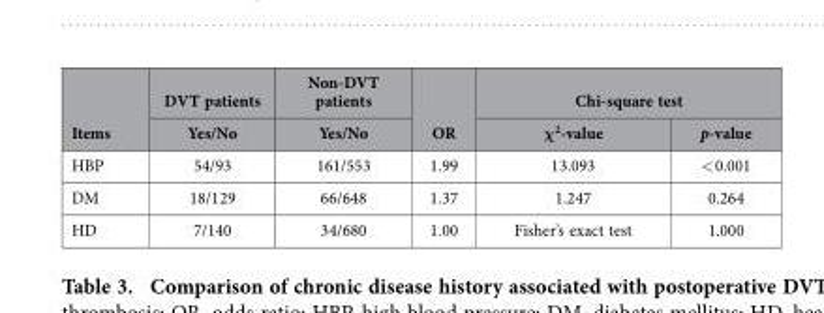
<table><thead><tr><td rowspan="2">Items</td><td rowspan="2">DVT patients Yes/No</td><td rowspan="2">Non-DVT patients Yes/No</td><td rowspan="2">OR</td><td colspan="2">Chi-square test</td></tr><tr><td>χ<sup>2</sup>-value</td><td>p-value</td></tr></thead><tbody><tr><td>HBP</td><td>54/93</td><td>161/553</td><td>1.99</td><td>13.093</td><td>&lt; 0.001</td></tr><tr><td>DM</td><td>18/129</td><td>66/648</td><td>1.37</td><td>1.247</td><td>0.264</td></tr><tr><td>HD</td><td>7/140</td><td>34/680</td><td>1.00</td><td>Fisher’s exact test</td><td>1.000</td></tr></tbody></table>